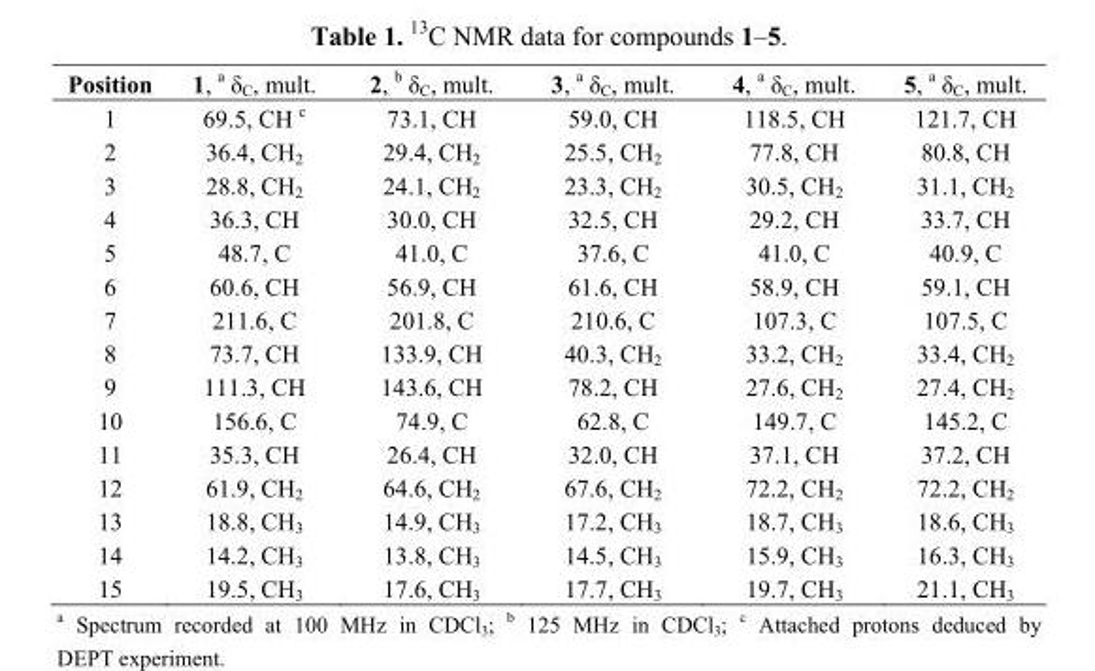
<table><thead><tr><td>Position</td><td>1, a δ<sub>C</sub>, mult.</td><td>2, b δ<sub>C</sub>, mult.</td><td>3, a δ<sub>C</sub>, mult.</td><td>4, a δ<sub>C</sub>, mult.</td><td>5, a δ<sub>C</sub>, mult.</td></tr></thead><tbody><tr><td>1</td><td>69.5, CH c</td><td>73.1, CH</td><td>59.0, CH</td><td>118.5, CH</td><td>121.7, CH</td></tr><tr><td>2</td><td>36.4, CH<sub>2</sub></td><td>29.4, CH<sub>2</sub></td><td>25.5, CH<sub>2</sub></td><td>77.8, CH</td><td>80.8, CH</td></tr><tr><td>3</td><td>28.8, CH<sub>2</sub></td><td>24.1, CH<sub>2</sub></td><td>23.3, CH<sub>2</sub></td><td>30.5, CH<sub>2</sub></td><td>31.1, CH<sub>2</sub></td></tr><tr><td>4</td><td>36.3, CH</td><td>30.0, CH</td><td>32.5, CH</td><td>29.2, CH</td><td>33.7, CH</td></tr><tr><td>5</td><td>48.7, C</td><td>41.0, C</td><td>37.6, C</td><td>41.0, C</td><td>40.9, C</td></tr><tr><td>6</td><td>60.6, CH</td><td>56.9, CH</td><td>61.6, CH</td><td>58.9, CH</td><td>59.1, CH</td></tr><tr><td>7</td><td>211.6, C</td><td>201.8, C</td><td>210.6, C</td><td>107.3, C</td><td>107.5, C</td></tr><tr><td>8</td><td>73.7, CH</td><td>133.9, CH</td><td>40.3, CH<sub>2</sub></td><td>33.2, CH<sub>2</sub></td><td>33.4, CH<sub>2</sub></td></tr><tr><td>9</td><td>111.3, CH</td><td>143.6, CH</td><td>78.2, CH</td><td>27.6, CH<sub>2</sub></td><td>27.4, CH<sub>2</sub></td></tr><tr><td>10</td><td>156.6, C</td><td>74.9, C</td><td>62.8, C</td><td>149.7, C</td><td>145.2, C</td></tr><tr><td>11</td><td>35.3, CH</td><td>26.4, CH</td><td>32.0, CH</td><td>37.1, CH</td><td>37.2, CH</td></tr><tr><td>12</td><td>61.9, CH<sub>2</sub></td><td>64.6, CH<sub>2</sub></td><td>67.6, CH<sub>2</sub></td><td>72.2, CH<sub>2</sub></td><td>72.2, CH<sub>2</sub></td></tr><tr><td>13</td><td>18.8, CH<sub>3</sub></td><td>14.9, CH<sub>3</sub></td><td>17.2, CH<sub>3</sub></td><td>18.7, CH<sub>3</sub></td><td>18.6, CH<sub>3</sub></td></tr><tr><td>14</td><td>14.2, CH<sub>3</sub></td><td>13.8, CH<sub>3</sub></td><td>14.5, CH<sub>3</sub></td><td>15.9, CH<sub>3</sub></td><td>16.3, CH<sub>3</sub></td></tr><tr><td>15</td><td>19.5, CH<sub>3</sub></td><td>17.6, CH<sub>3</sub></td><td>17.7, CH<sub>3</sub></td><td>19.7, CH<sub>3</sub></td><td>21.1, CH<sub>3</sub></td></tr></tbody></table>